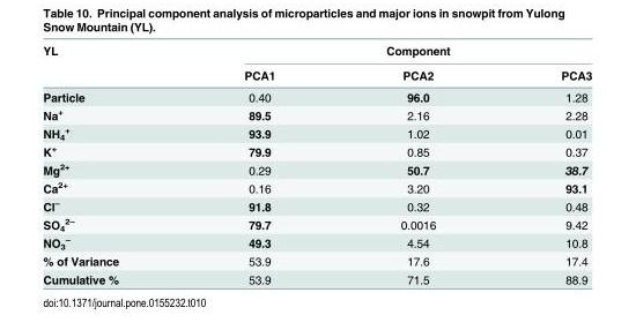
<table><thead><tr><td rowspan="2">YL</td><td colspan="3">Component</td></tr><tr><td>PCA1</td><td>PCA2</td><td>PCA3</td></tr></thead><tbody><tr><td>Particle</td><td>0.40</td><td>96.0</td><td>1.28</td></tr><tr><td>Na<sup>+</sup></td><td>89.5</td><td>2.16</td><td>2.28</td></tr><tr><td>NH<sub>4</sub> <sup>+</sup></td><td>93.9</td><td>1.02</td><td>0.01</td></tr><tr><td>K<sup>+</sup></td><td>79.9</td><td>0.85</td><td>0.37</td></tr><tr><td>Mg<sup>2+</sup></td><td>0.29</td><td>50.7</td><td>38.7</td></tr><tr><td>Ca<sup>2+</sup></td><td>0.16</td><td>3.20</td><td>93.1</td></tr><tr><td>Cl<sup>–</sup></td><td>91.8</td><td>0.32</td><td>0.48</td></tr><tr><td>SO<sub>4</sub> <sup>2–</sup></td><td>79.7</td><td>0.0016</td><td>9.42</td></tr><tr><td>NO<sub>3</sub> <sup>–</sup></td><td>49.3</td><td>4.54</td><td>10.8</td></tr><tr><td>% of Variance</td><td>53.9</td><td>17.6</td><td>17.4</td></tr><tr><td>Cumulative %</td><td>53.9</td><td>71.5</td><td>88.9</td></tr></tbody></table>